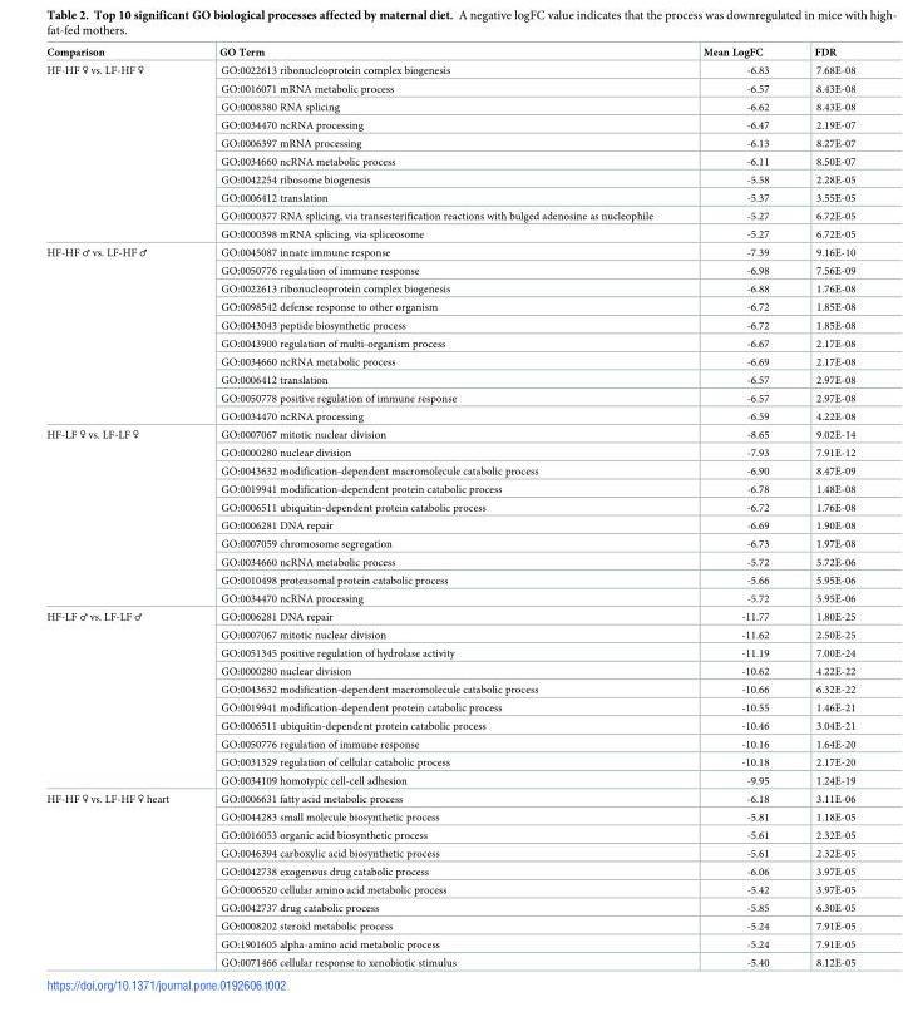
<table><thead><tr><td>Comparison</td><td>GO Term</td><td>Mean LogFC</td><td>FDR</td></tr></thead><tbody><tr><td rowspan="10">HF-HF ♀ vs. LF-HF ♀</td><td>GO:0022613 ribonucleoprotein complex biogenesis</td><td>-6.83</td><td>7.68E-08</td></tr><tr><td>GO:0016071 mRNA metabolic process</td><td>-6.57</td><td>8.43E-08</td></tr><tr><td>GO:0008380 RNA splicing</td><td>-6.62</td><td>8.43E-08</td></tr><tr><td>GO:0034470 ncRNA processing</td><td>-6.47</td><td>2.19E-07</td></tr><tr><td>GO:0006397 mRNA processing</td><td>-6.13</td><td>8.27E-07</td></tr><tr><td>GO:0034660 ncRNA metabolic process</td><td>-6.11</td><td>8.50E-07</td></tr><tr><td>GO:0042254 ribosome biogenesis</td><td>-5.58</td><td>2.28E-05</td></tr><tr><td>GO:0006412 translation</td><td>-5.37</td><td>3.55E-05</td></tr><tr><td>GO:0000377 RNA splicing, via transesterification reactions with bulged adenosine as nucleophile</td><td>-5.27</td><td>6.72E-05</td></tr><tr><td>GO:0000398 mRNA splicing, via spliceosome</td><td>-5.27</td><td>6.72E-05</td></tr><tr><td rowspan="10">HF-HF ♂ vs. LF-HF ♂</td><td>GO:0045087 innate immune response</td><td>-7.39</td><td>9.16E-10</td></tr><tr><td>GO:0050776 regulation of immune response</td><td>-6.98</td><td>7.56E-09</td></tr><tr><td>GO:0022613 ribonucleoprotein complex biogenesis</td><td>-6.88</td><td>1.76E-08</td></tr><tr><td>GO:0098542 defense response to other organism</td><td>-6.72</td><td>1.85E-08</td></tr><tr><td>GO:0043043 peptide biosynthetic process</td><td>-6.72</td><td>1.85E-08</td></tr><tr><td>GO:0043900 regulation of multi-organism process</td><td>-6.67</td><td>2.17E-08</td></tr><tr><td>GO:0034660 ncRNA metabolic process</td><td>-6.69</td><td>2.17E-08</td></tr><tr><td>GO:0006412 translation</td><td>-6.57</td><td>2.97E-08</td></tr><tr><td>GO:0050778 positive regulation of immune response</td><td>-6.57</td><td>2.97E-08</td></tr><tr><td>GO:0034470 ncRNA processing</td><td>-6.59</td><td>4.22E-08</td></tr><tr><td rowspan="10">HF-LF ♀ vs. LF-LF ♀</td><td>GO:0007067 mitotic nuclear division</td><td>-8.65</td><td>9.02E-14</td></tr><tr><td>GO:0000280 nuclear division</td><td>-7.93</td><td>7.91E-12</td></tr><tr><td>GO:0043632 modification-dependent macromolecule catabolic process</td><td>-6.90</td><td>8.47E-09</td></tr><tr><td>GO:0019941 modification-dependent protein catabolic process</td><td>-6.78</td><td>1.48E-08</td></tr><tr><td>GO:0006511 ubiquitin-dependent protein catabolic process</td><td>-6.72</td><td>1.76E-08</td></tr><tr><td>GO:0006281 DNA repair</td><td>-6.69</td><td>1.90E-08</td></tr><tr><td>GO:0007059 chromosome segregation</td><td>-6.73</td><td>1.97E-08</td></tr><tr><td>GO:0034660 ncRNA metabolic process</td><td>-5.72</td><td>5.72E-06</td></tr><tr><td>GO:0010498 proteasomal protein catabolic process</td><td>-5.66</td><td>5.95E-06</td></tr><tr><td>GO:0034470 ncRNA processing</td><td>-5.72</td><td>5.95E-06</td></tr><tr><td rowspan="10">HF-LF ♂ vs. LF-LF ♂</td><td>GO:0006281 DNA repair</td><td>-11.77</td><td>1.80E-25</td></tr><tr><td>GO:0007067 mitotic nuclear division</td><td>-11.62</td><td>2.50E-25</td></tr><tr><td>GO:0051345 positive regulation of hydrolase activity</td><td>-11.19</td><td>7.00E-24</td></tr><tr><td>GO:0000280 nuclear division</td><td>-10.62</td><td>4.22E-22</td></tr><tr><td>GO:0043632 modification-dependent macromolecule catabolic process</td><td>-10.66</td><td>6.32E-22</td></tr><tr><td>GO:0019941 modification-dependent protein catabolic process</td><td>-10.55</td><td>1.46E-21</td></tr><tr><td>GO:0006511 ubiquitin-dependent protein catabolic process</td><td>-10.46</td><td>3.04E-21</td></tr><tr><td>GO:0050776 regulation of immune response</td><td>-10.16</td><td>1.64E-20</td></tr><tr><td>GO:0031329 regulation of cellular catabolic process</td><td>-10.18</td><td>2.17E-20</td></tr><tr><td>GO:0034109 homotypic cell-cell adhesion</td><td>-9.95</td><td>1.24E-19</td></tr><tr><td rowspan="10">HF-HF ♀ vs. LF-HF ♀ heart</td><td>GO:0006631 fatty acid metabolic process</td><td>-6.18</td><td>3.11E-06</td></tr><tr><td>GO:0044283 small molecule biosynthetic process</td><td>-5.81</td><td>1.18E-05</td></tr><tr><td>GO:0016053 organic acid biosynthetic process</td><td>-5.61</td><td>2.32E-05</td></tr><tr><td>GO:0046394 carboxylic acid biosynthetic process</td><td>-5.61</td><td>2.32E-05</td></tr><tr><td>GO:0042738 exogenous drug catabolic process</td><td>-6.06</td><td>3.97E-05</td></tr><tr><td>GO:0006520 cellular amino acid metabolic process</td><td>-5.42</td><td>3.97E-05</td></tr><tr><td>GO:0042737 drug catabolic process</td><td>-5.85</td><td>6.30E-05</td></tr><tr><td>GO:0008202 steroid metabolic process</td><td>-5.24</td><td>7.91E-05</td></tr><tr><td>GO:1901605 alpha-amino acid metabolic process</td><td>-5.24</td><td>7.91E-05</td></tr><tr><td>GO:0071466 cellular response to xenobiotic stimulus</td><td>-5.40</td><td>8.12E-05</td></tr></tbody></table>